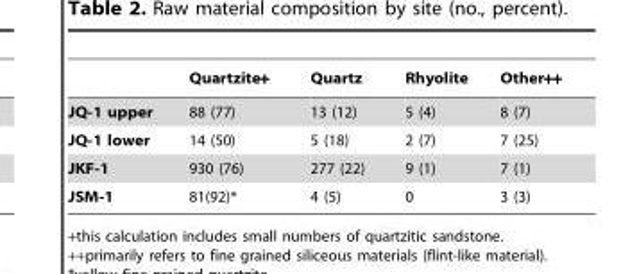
<table><thead><tr><td></td><td>Quartzite+</td><td>Quartz</td><td>Rhyolite</td><td>Other++</td></tr></thead><tbody><tr><td>JQ-1 upper</td><td>88 (77)</td><td>13 (12)</td><td>5 (4)</td><td>8 (7)</td></tr><tr><td>JQ-1 lower</td><td>14 (50)</td><td>5 (18)</td><td>2 (7)</td><td>7 (25)</td></tr><tr><td>JKF-1</td><td>930 (76)</td><td>277 (22)</td><td>9 (1)</td><td>7 (1)</td></tr><tr><td>JSM-1</td><td>81(92)*</td><td>4 (5)</td><td>0</td><td>3 (3)</td></tr></tbody></table>